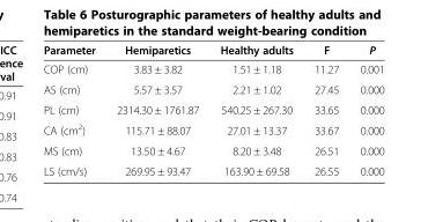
<table><thead><tr><td>Parameter</td><td>Hemiparetics</td><td>Healthy adults</td><td>F</td><td>P</td></tr></thead><tbody><tr><td>COP (cm)</td><td>3.83 ± 3.82</td><td>1.51 ± 1.18</td><td>11.27</td><td>0.001</td></tr><tr><td>AS (cm)</td><td>5.57 ± 3.57</td><td>2.21 ± 1.02</td><td>27.45</td><td>0.000</td></tr><tr><td>PL (cm)</td><td>2314.30 ± 1761.87</td><td>540.25 ± 267.30</td><td>33.65</td><td>0.000</td></tr><tr><td>CA (cm<sup>2</sup>)</td><td>115.71 ± 88.07</td><td>27.01 ± 13.37</td><td>33.67</td><td>0.000</td></tr><tr><td>MS (cm)</td><td>13.50 ± 4.67</td><td>8.20 ± 3.48</td><td>26.51</td><td>0.000</td></tr><tr><td>LS (cm/s)</td><td>269.95 ± 93.47</td><td>163.90 ± 69.58</td><td>26.55</td><td>0.000</td></tr></tbody></table>